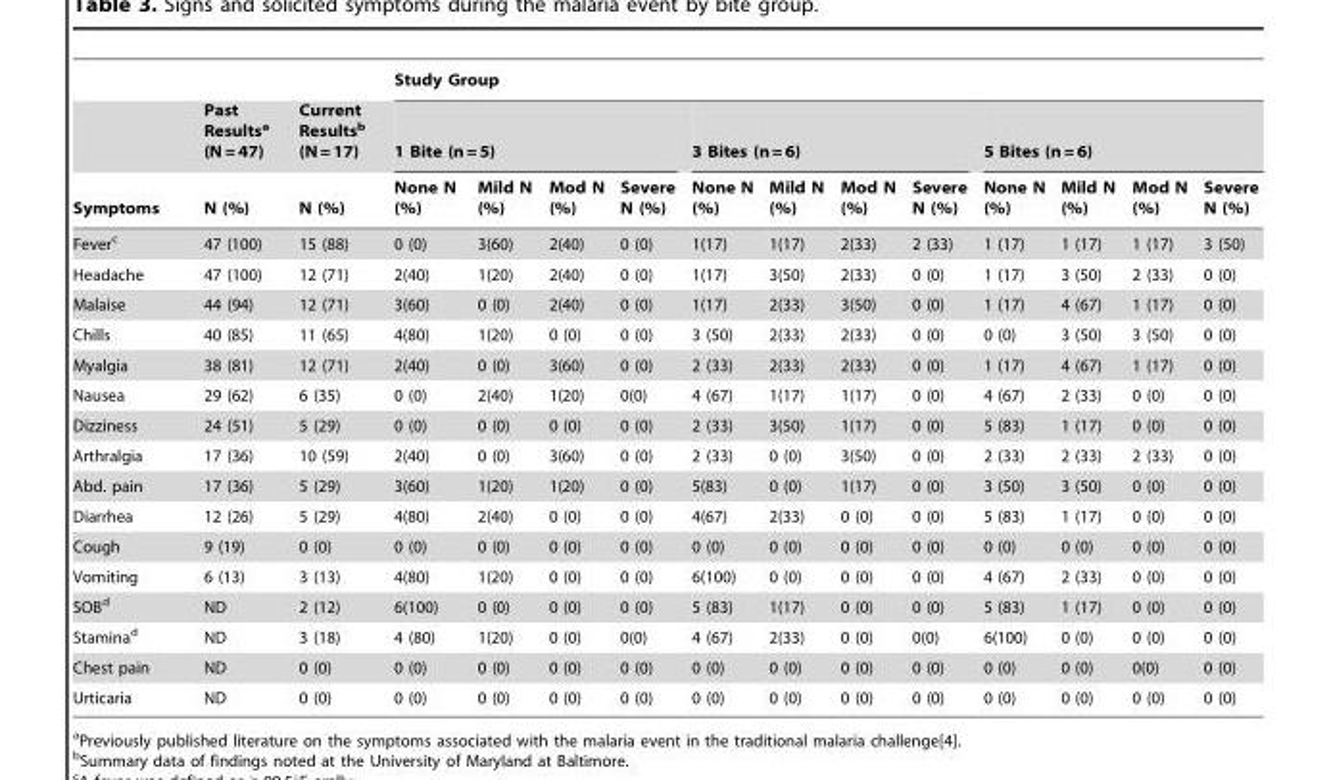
<table><thead><tr><td rowspan="3">Symptoms</td><td rowspan="3">Past Results<sup>a</sup> (N = 47) N (%)</td><td rowspan="3">Current Results<sup>b</sup> (N = 17) N (%)</td><td colspan="12">Study Group</td></tr><tr><td colspan="4">1 Bite (n = 5)</td><td colspan="4">3 Bites (n = 6)</td><td colspan="4">5 Bites (n = 6)</td></tr><tr><td>None N (%)</td><td>Mild N (%)</td><td>Mod N (%)</td><td>Severe N (%)</td><td>None N (%)</td><td>Mild N (%)</td><td>Mod N (%)</td><td>Severe N (%)</td><td>None N (%)</td><td>Mild N (%)</td><td>Mod N (%)</td><td>Severe N (%)</td></tr></thead><tbody><tr><td>Fever<sup>c</sup></td><td>47 (100)</td><td>15 (88)</td><td>0 (0)</td><td>3(60)</td><td>2(40)</td><td>0 (0)</td><td>1(17)</td><td>1(17)</td><td>2(33)</td><td>2 (33)</td><td>1 (17)</td><td>1 (17)</td><td>1 (17)</td><td>3 (50)</td></tr><tr><td>Headache</td><td>47 (100)</td><td>12 (71)</td><td>2(40)</td><td>1(20)</td><td>2(40)</td><td>0 (0)</td><td>1(17)</td><td>3(50)</td><td>2(33)</td><td>0 (0)</td><td>1 (17)</td><td>3 (50)</td><td>2 (33)</td><td>0 (0)</td></tr><tr><td>Malaise</td><td>44 (94)</td><td>12 (71)</td><td>3(60)</td><td>0 (0)</td><td>2(40)</td><td>0 (0)</td><td>1(17)</td><td>2(33)</td><td>3(50)</td><td>0 (0)</td><td>1 (17)</td><td>4 (67)</td><td>1 (17)</td><td>0 (0)</td></tr><tr><td>Chills</td><td>40 (85)</td><td>11 (65)</td><td>4(80)</td><td>1(20)</td><td>0 (0)</td><td>0 (0)</td><td>3 (50)</td><td>2(33)</td><td>2(33)</td><td>0 (0)</td><td>0 (0)</td><td>3 (50)</td><td>3 (50)</td><td>0 (0)</td></tr><tr><td>Myalgia</td><td>38 (81)</td><td>12 (71)</td><td>2(40)</td><td>0 (0)</td><td>3(60)</td><td>0 (0)</td><td>2 (33)</td><td>2(33)</td><td>2(33)</td><td>0 (0)</td><td>1 (17)</td><td>4 (67)</td><td>1 (17)</td><td>0 (0)</td></tr><tr><td>Nausea</td><td>29 (62)</td><td>6 (35)</td><td>0 (0)</td><td>2(40)</td><td>1(20)</td><td>0(0)</td><td>4 (67)</td><td>1(17)</td><td>1(17)</td><td>0 (0)</td><td>4 (67)</td><td>2 (33)</td><td>0 (0)</td><td>0 (0)</td></tr><tr><td>Dizziness</td><td>24 (51)</td><td>5 (29)</td><td>0 (0)</td><td>0 (0)</td><td>0 (0)</td><td>0 (0)</td><td>2 (33)</td><td>3(50)</td><td>1(17)</td><td>0 (0)</td><td>5 (83)</td><td>1 (17)</td><td>0 (0)</td><td>0 (0)</td></tr><tr><td>Arthralgia</td><td>17 (36)</td><td>10 (59)</td><td>2(40)</td><td>0 (0)</td><td>3(60)</td><td>0 (0)</td><td>2 (33)</td><td>0 (0)</td><td>3(50)</td><td>0 (0)</td><td>2 (33)</td><td>2 (33)</td><td>2 (33)</td><td>0 (0)</td></tr><tr><td>Abd. pain</td><td>17 (36)</td><td>5 (29)</td><td>3(60)</td><td>1(20)</td><td>1(20)</td><td>0 (0)</td><td>5(83)</td><td>0 (0)</td><td>1(17)</td><td>0 (0)</td><td>3 (50)</td><td>3 (50)</td><td>0 (0)</td><td>0 (0)</td></tr><tr><td>Diarrhea</td><td>12 (26)</td><td>5 (29)</td><td>4(80)</td><td>2(40)</td><td>0 (0)</td><td>0 (0)</td><td>4(67)</td><td>2(33)</td><td>0 (0)</td><td>0 (0)</td><td>5 (83)</td><td>1 (17)</td><td>0 (0)</td><td>0 (0)</td></tr><tr><td>Cough</td><td>9 (19)</td><td>0 (0)</td><td>0 (0)</td><td>0 (0)</td><td>0 (0)</td><td>0 (0)</td><td>0 (0)</td><td>0 (0)</td><td>0 (0)</td><td>0 (0)</td><td>0 (0)</td><td>0 (0)</td><td>0 (0)</td><td>0 (0)</td></tr><tr><td>Vomiting</td><td>6 (13)</td><td>3 (13)</td><td>4(80)</td><td>1(20)</td><td>0 (0)</td><td>0 (0)</td><td>6(100)</td><td>0 (0)</td><td>0 (0)</td><td>0 (0)</td><td>4 (67)</td><td>2 (33)</td><td>0 (0)</td><td>0 (0)</td></tr><tr><td>SOB<sup>d</sup></td><td>ND</td><td>2 (12)</td><td>6(100)</td><td>0 (0)</td><td>0 (0)</td><td>0 (0)</td><td>5 (83)</td><td>1(17)</td><td>0 (0)</td><td>0 (0)</td><td>5 (83)</td><td>1 (17)</td><td>0 (0)</td><td>0 (0)</td></tr><tr><td>Stamina<sup>d</sup></td><td>ND</td><td>3 (18)</td><td>4 (80)</td><td>1(20)</td><td>0 (0)</td><td>0(0)</td><td>4 (67)</td><td>2(33)</td><td>0 (0)</td><td>0(0)</td><td>6(100)</td><td>0 (0)</td><td>0 (0)</td><td>0 (0)</td></tr><tr><td>Chest pain</td><td>ND</td><td>0 (0)</td><td>0 (0)</td><td>0 (0)</td><td>0 (0)</td><td>0 (0)</td><td>0 (0)</td><td>0 (0)</td><td>0 (0)</td><td>0 (0)</td><td>0 (0)</td><td>0 (0)</td><td>0(0)</td><td>0 (0)</td></tr><tr><td>Urticaria</td><td>ND</td><td>0 (0)</td><td>0 (0)</td><td>0 (0)</td><td>0 (0)</td><td>0 (0)</td><td>0 (0)</td><td>0 (0)</td><td>0 (0)</td><td>0 (0)</td><td>0 (0)</td><td>0 (0)</td><td>0 (0)</td><td>0 (0)</td></tr></tbody></table>